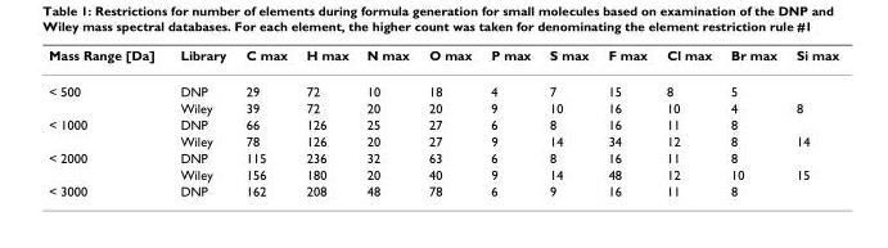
<table><thead><tr><td>Mass Range [Da]</td><td>Library</td><td>C max</td><td>H max</td><td>N max</td><td>O max</td><td>P max</td><td>S max</td><td>F max</td><td>Cl max</td><td>Br max</td><td>Si max</td></tr></thead><tbody><tr><td rowspan="2">&lt; 500</td><td>DNP</td><td>29</td><td>72</td><td>10</td><td>18</td><td>4</td><td>7</td><td>15</td><td>8</td><td>5</td><td></td></tr><tr><td>Wiley</td><td>39</td><td>72</td><td>20</td><td>20</td><td>9</td><td>10</td><td>16</td><td>10</td><td>4</td><td>8</td></tr><tr><td rowspan="2">&lt; 1000</td><td>DNP</td><td>66</td><td>126</td><td>25</td><td>27</td><td>6</td><td>8</td><td>16</td><td>11</td><td>8</td><td></td></tr><tr><td>Wiley</td><td>78</td><td>126</td><td>20</td><td>27</td><td>9</td><td>14</td><td>34</td><td>12</td><td>8</td><td>14</td></tr><tr><td rowspan="2">&lt; 2000</td><td>DNP</td><td>115</td><td>236</td><td>32</td><td>63</td><td>6</td><td>8</td><td>16</td><td>11</td><td>8</td><td></td></tr><tr><td>Wiley</td><td>156</td><td>180</td><td>20</td><td>40</td><td>9</td><td>14</td><td>48</td><td>12</td><td>10</td><td>15</td></tr><tr><td>&lt; 3000</td><td>DNP</td><td>162</td><td>208</td><td>48</td><td>78</td><td>6</td><td>9</td><td>16</td><td>11</td><td>8</td><td></td></tr></tbody></table>